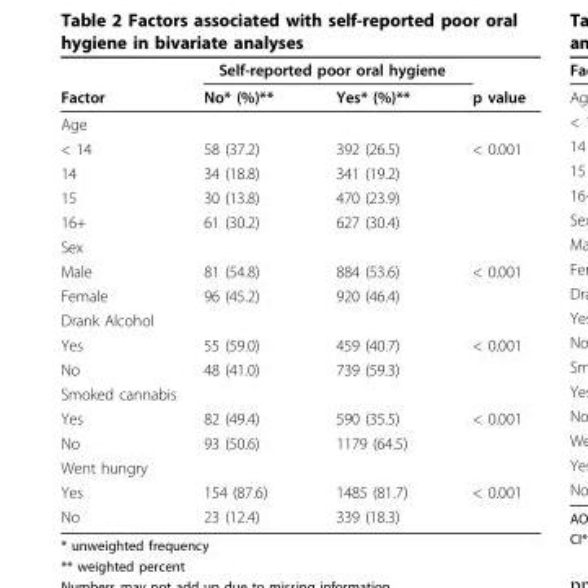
<table><thead><tr><td rowspan="2">Factor</td><td colspan="2">Self-reported poor oral hygiene</td><td rowspan="2">p value</td></tr><tr><td>No* (%)**</td><td>Yes* (%)**</td></tr></thead><tbody><tr><td colspan="4">Age</td></tr><tr><td>&lt; 14</td><td>58 (37.2)</td><td>392 (26.5)</td><td>&lt; 0.001</td></tr><tr><td>14</td><td>34 (18.8)</td><td>341 (19.2)</td><td></td></tr><tr><td>15</td><td>30 (13.8)</td><td>470 (23.9)</td><td></td></tr><tr><td>16+</td><td>61 (30.2)</td><td>627 (30.4)</td><td></td></tr><tr><td colspan="4">Sex</td></tr><tr><td>Male</td><td>81 (54.8)</td><td>884 (53.6)</td><td>&lt; 0.001</td></tr><tr><td>Female</td><td>96 (45.2)</td><td>920 (46.4)</td><td></td></tr><tr><td colspan="4">Drank Alcohol</td></tr><tr><td>Yes</td><td>55 (59.0)</td><td>459 (40.7)</td><td>&lt; 0.001</td></tr><tr><td>No</td><td>48 (41.0)</td><td>739 (59.3)</td><td></td></tr><tr><td colspan="4">Smoked cannabis</td></tr><tr><td>Yes</td><td>82 (49.4)</td><td>590 (35.5)</td><td>&lt; 0.001</td></tr><tr><td>No</td><td>93 (50.6)</td><td>1179 (64.5)</td><td></td></tr><tr><td colspan="4">Went hungry</td></tr><tr><td>Yes</td><td>154 (87.6)</td><td>1485 (81.7)</td><td>&lt; 0.001</td></tr><tr><td>No</td><td>23 (12.4)</td><td>339 (18.3)</td><td></td></tr></tbody></table>